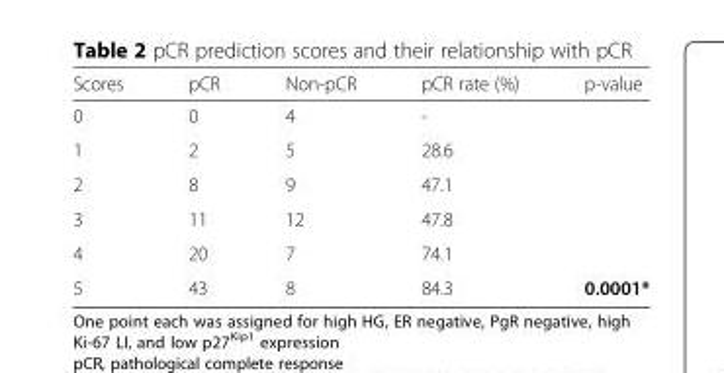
<table><thead><tr><td>Scores</td><td>pCR</td><td>Non-pCR</td><td>pCR rate (%)</td><td>p-value</td></tr></thead><tbody><tr><td>0</td><td>0</td><td>4</td><td>-</td><td></td></tr><tr><td>1</td><td>2</td><td>5</td><td>28.6</td><td></td></tr><tr><td>2</td><td>8</td><td>9</td><td>47.1</td><td></td></tr><tr><td>3</td><td>11</td><td>12</td><td>47.8</td><td></td></tr><tr><td>4</td><td>20</td><td>7</td><td>74.1</td><td></td></tr><tr><td>5</td><td>43</td><td>8</td><td>84.3</td><td>0.0001*</td></tr></tbody></table>